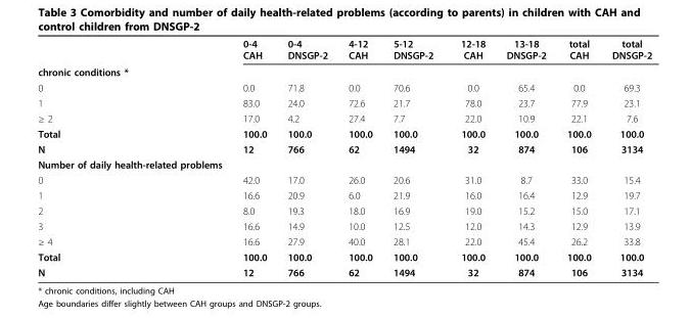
<table><thead><tr><td></td><td>0-4 CAH</td><td>0-4 DNSGP-2</td><td>4-12 CAH</td><td>5-12 DNSGP-2</td><td>12-18 CAH</td><td>13-18 DNSGP-2</td><td>total CAH</td><td>total DNSGP-2</td></tr></thead><tbody><tr><td colspan="9">chronic conditions *</td></tr><tr><td>0</td><td>0.0</td><td>71.8</td><td>0.0</td><td>70.6</td><td>0.0</td><td>65.4</td><td>0.0</td><td>69.3</td></tr><tr><td>1</td><td>83.0</td><td>24.0</td><td>72.6</td><td>21.7</td><td>78.0</td><td>23.7</td><td>77.9</td><td>23.1</td></tr><tr><td>≥ 2</td><td>17.0</td><td>4.2</td><td>27.4</td><td>7.7</td><td>22.0</td><td>10.9</td><td>22.1</td><td>7.6</td></tr><tr><td>Total</td><td>100.0</td><td>100.0</td><td>100.0</td><td>100.0</td><td>100.0</td><td>100.0</td><td>100.0</td><td>100.0</td></tr><tr><td>N</td><td>12</td><td>766</td><td>62</td><td>1494</td><td>32</td><td>874</td><td>106</td><td>3134</td></tr><tr><td colspan="9">Number of daily health-related problems</td></tr><tr><td>0</td><td>42.0</td><td>17.0</td><td>26.0</td><td>20.6</td><td>31.0</td><td>8.7</td><td>33.0</td><td>15.4</td></tr><tr><td>1</td><td>16.6</td><td>20.9</td><td>6.0</td><td>21.9</td><td>16.0</td><td>16.4</td><td>12.9</td><td>19.7</td></tr><tr><td>2</td><td>8.0</td><td>19.3</td><td>18.0</td><td>16.9</td><td>19.0</td><td>15.2</td><td>15.0</td><td>17.1</td></tr><tr><td>3</td><td>16.6</td><td>14.9</td><td>10.0</td><td>12.5</td><td>12.0</td><td>14.3</td><td>12.9</td><td>13.9</td></tr><tr><td>≥ 4</td><td>16.6</td><td>27.9</td><td>40.0</td><td>28.1</td><td>22.0</td><td>45.4</td><td>26.2</td><td>33.8</td></tr><tr><td>Total</td><td>100.0</td><td>100.0</td><td>100.0</td><td>100.0</td><td>100.0</td><td>100.0</td><td>100.0</td><td>100.0</td></tr><tr><td>N</td><td>12</td><td>766</td><td>62</td><td>1494</td><td>32</td><td>874</td><td>106</td><td>3134</td></tr></tbody></table>